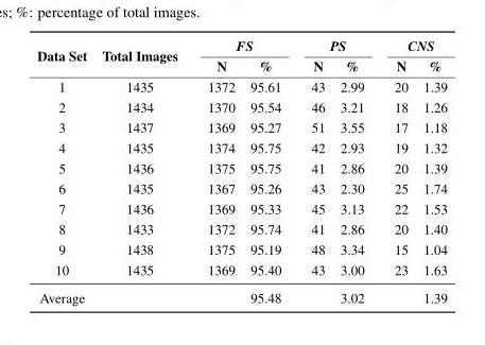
<table><thead><tr><td rowspan="2">Data Set</td><td rowspan="2">Total Images</td><td colspan="2">FS</td><td colspan="2">PS</td><td colspan="2">CNS</td></tr><tr><td>N</td><td>%</td><td>N</td><td>%</td><td>N</td><td>%</td></tr></thead><tbody><tr><td>1</td><td>1435</td><td>1372</td><td>95.61</td><td>43</td><td>2.99</td><td>20</td><td>1.39</td></tr><tr><td>2</td><td>1434</td><td>1370</td><td>95.54</td><td>46</td><td>3.21</td><td>18</td><td>1.26</td></tr><tr><td>3</td><td>1437</td><td>1369</td><td>95.27</td><td>51</td><td>3.55</td><td>17</td><td>1.18</td></tr><tr><td>4</td><td>1435</td><td>1374</td><td>95.75</td><td>42</td><td>2.93</td><td>19</td><td>1.32</td></tr><tr><td>5</td><td>1436</td><td>1375</td><td>95.75</td><td>41</td><td>2.86</td><td>20</td><td>1.39</td></tr><tr><td>6</td><td>1435</td><td>1367</td><td>95.26</td><td>43</td><td>2.30</td><td>25</td><td>1.74</td></tr><tr><td>7</td><td>1436</td><td>1369</td><td>95.33</td><td>45</td><td>3.13</td><td>22</td><td>1.53</td></tr><tr><td>8</td><td>1433</td><td>1372</td><td>95.74</td><td>41</td><td>2.86</td><td>20</td><td>1.40</td></tr><tr><td>9</td><td>1438</td><td>1375</td><td>95.19</td><td>48</td><td>3.34</td><td>15</td><td>1.04</td></tr><tr><td>10</td><td>1435</td><td>1369</td><td>95.40</td><td>43</td><td>3.00</td><td>23</td><td>1.63</td></tr><tr><td>Average</td><td></td><td></td><td>95.48</td><td></td><td>3.02</td><td></td><td>1.39</td></tr></tbody></table>